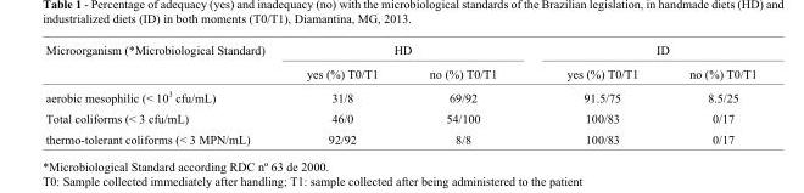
<table><thead><tr><td rowspan="2">Microorganism (*Microbiological Standard)</td><td colspan="2">HD</td><td colspan="2">ID</td></tr><tr><td>yes (%) T0/T1</td><td>no (%) T0/T1</td><td>yes (%) T0/T1</td><td>no (%) T0/T1</td></tr></thead><tbody><tr><td>aerobic mesophilic (&lt; 10<sup>3</sup> cfu/mL)</td><td>31/8</td><td>69/92</td><td>91.5/75</td><td>8.5/25</td></tr><tr><td>Total coliforms (&lt; 3 cfu/mL)</td><td>46/0</td><td>54/100</td><td>100/83</td><td>0/17</td></tr><tr><td>thermo-tolerant coliforms (&lt; 3 MPN/mL)</td><td>92/92</td><td>8/8</td><td>100/83</td><td>0/17</td></tr></tbody></table>